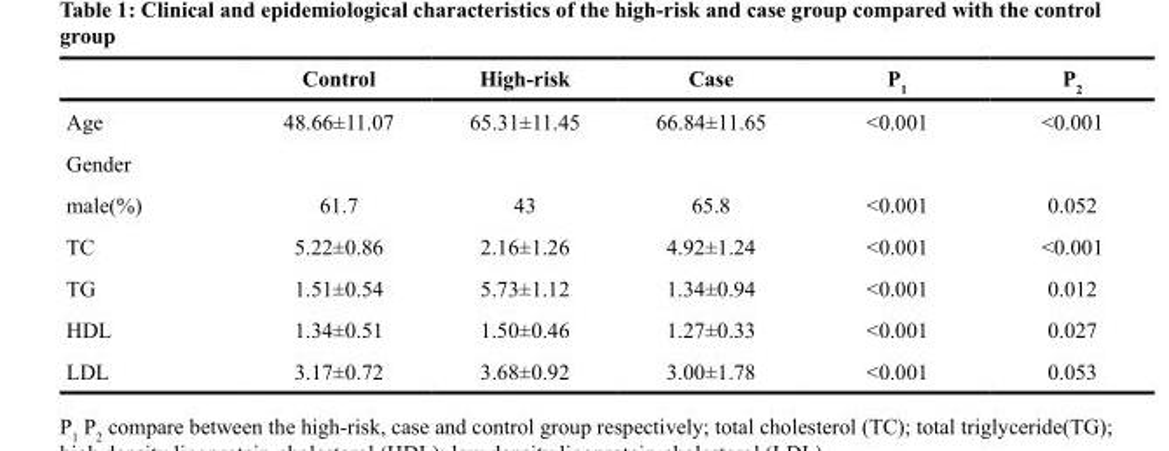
<table><thead><tr><td></td><td>Control</td><td>High-risk</td><td>Case</td><td>P<sub>1</sub></td><td>P<sub>2</sub></td></tr></thead><tbody><tr><td>Age</td><td>48.66±11.07</td><td>65.31±11.45</td><td>66.84±11.65</td><td>&lt;0.001</td><td>&lt;0.001</td></tr><tr><td colspan="6">Gender</td></tr><tr><td>male(%)</td><td>61.7</td><td>43</td><td>65.8</td><td>&lt;0.001</td><td>0.052</td></tr><tr><td>TC</td><td>5.22±0.86</td><td>2.16±1.26</td><td>4.92±1.24</td><td>&lt;0.001</td><td>&lt;0.001</td></tr><tr><td>TG</td><td>1.51±0.54</td><td>5.73±1.12</td><td>1.34±0.94</td><td>&lt;0.001</td><td>0.012</td></tr><tr><td>HDL</td><td>1.34±0.51</td><td>1.50±0.46</td><td>1.27±0.33</td><td>&lt;0.001</td><td>0.027</td></tr><tr><td>LDL</td><td>3.17±0.72</td><td>3.68±0.92</td><td>3.00±1.78</td><td>&lt;0.001</td><td>0.053</td></tr></tbody></table>